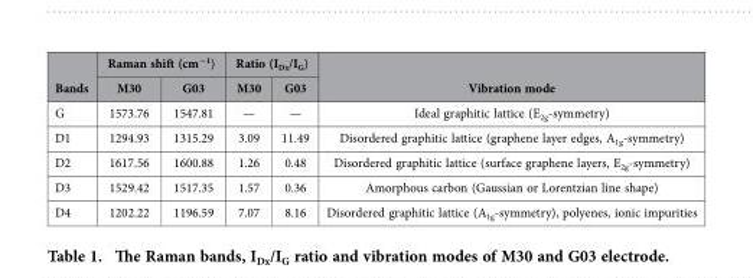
<table><thead><tr><td rowspan="2">Bands</td><td colspan="2">Raman shift (cm<sup>−1</sup>)</td><td colspan="2">Ratio (I<sub>Dx</sub>/I<sub>G</sub>)</td><td rowspan="2">Vibration mode</td></tr><tr><td>M30</td><td>G03</td><td>M30</td><td>G03</td></tr></thead><tbody><tr><td>G</td><td>1573.76</td><td>1547.81</td><td>—</td><td>—</td><td>Ideal graphitic lattice (E<sub>2g</sub>-symmetry)</td></tr><tr><td>D1</td><td>1294.93</td><td>1315.29</td><td>3.09</td><td>11.49</td><td>Disordered graphitic lattice (graphene layer edges, A<sub>1g</sub>-symmetry)</td></tr><tr><td>D2</td><td>1617.56</td><td>1600.88</td><td>1.26</td><td>0.48</td><td>Disordered graphitic lattice (surface graphene layers, E<sub>2g</sub>-symmetry)</td></tr><tr><td>D3</td><td>1529.42</td><td>1517.35</td><td>1.57</td><td>0.36</td><td>Amorphous carbon (Gaussian or Lorentzian line shape)</td></tr><tr><td>D4</td><td>1202.22</td><td>1196.59</td><td>7.07</td><td>8.16</td><td>Disordered graphitic lattice (A<sub>1g</sub>-symmetry), polyenes, ionic impurities</td></tr></tbody></table>